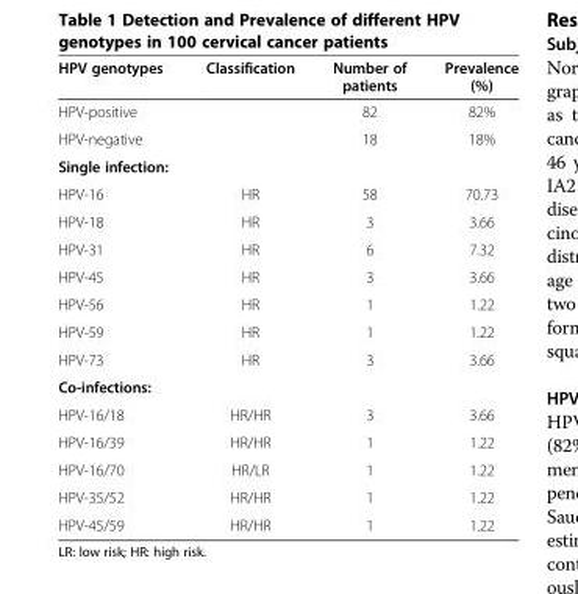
<table><thead><tr><td>HPV genotypes</td><td>Classification</td><td>Number of patients</td><td>Prevalence (%)</td></tr></thead><tbody><tr><td>HPV-positive</td><td></td><td>82</td><td>82%</td></tr><tr><td>HPV-negative</td><td></td><td>18</td><td>18%</td></tr><tr><td colspan="4">Single infection:</td></tr><tr><td>HPV-16</td><td>HR</td><td>58</td><td>70.73</td></tr><tr><td>HPV-18</td><td>HR</td><td>3</td><td>3.66</td></tr><tr><td>HPV-31</td><td>HR</td><td>6</td><td>7.32</td></tr><tr><td>HPV-45</td><td>HR</td><td>3</td><td>3.66</td></tr><tr><td>HPV-56</td><td>HR</td><td>1</td><td>1.22</td></tr><tr><td>HPV-59</td><td>HR</td><td>1</td><td>1.22</td></tr><tr><td>HPV-73</td><td>HR</td><td>3</td><td>3.66</td></tr><tr><td colspan="4">Co-infections:</td></tr><tr><td>HPV-16/18</td><td>HR/HR</td><td>3</td><td>3.66</td></tr><tr><td>HPV-16/39</td><td>HR/HR</td><td>1</td><td>1.22</td></tr><tr><td>HPV-16/70</td><td>HR/LR</td><td>1</td><td>1.22</td></tr><tr><td>HPV-35/52</td><td>HR/HR</td><td>1</td><td>1.22</td></tr><tr><td>HPV-45/59</td><td>HR/HR</td><td>1</td><td>1.22</td></tr></tbody></table>